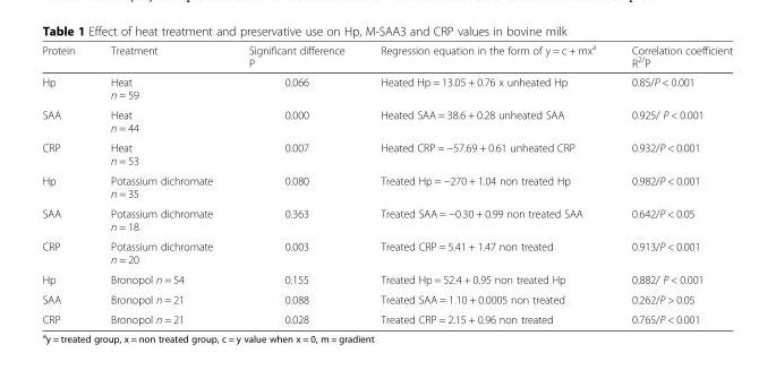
<table><thead><tr><td>Protein</td><td>Treatment</td><td>Significant difference P</td><td>Regression equation in the form of y = c + mx<sup>a</sup></td><td>Correlation coefficient R<sup>2/</sup>P</td></tr></thead><tbody><tr><td>Hp</td><td>Heat n = 59</td><td>0.066</td><td>Heated Hp = 13.05 + 0.76 x unheated Hp</td><td>0.85/P &lt; 0.001</td></tr><tr><td>SAA</td><td>Heat n = 44</td><td>0.000</td><td>Heated SAA = 38.6 + 0.28 unheated SAA</td><td>0.925/ P &lt; 0.001</td></tr><tr><td>CRP</td><td>Heat n = 53</td><td>0.007</td><td>Heated CRP = −57.69 + 0.61 unheated CRP</td><td>0.932/P &lt; 0.001</td></tr><tr><td>Hp</td><td>Potassium dichromate n = 35</td><td>0.080</td><td>Treated Hp = −270 + 1.04 non treated Hp</td><td>0.982/P &lt; 0.001</td></tr><tr><td>SAA</td><td>Potassium dichromate n = 18</td><td>0.363</td><td>Treated SAA = −0.30 + 0.99 non treated SAA</td><td>0.642/P &lt; 0.05</td></tr><tr><td>CRP</td><td>Potassium dichromate n = 20</td><td>0.003</td><td>Treated CRP = 5.41 + 1.47 non treated</td><td>0.913/P &lt; 0.001</td></tr><tr><td>Hp</td><td>Bronopol n = 54</td><td>0.155</td><td>Treated Hp = 52.4 + 0.95 non treated Hp</td><td>0.882/ P &lt; 0.001</td></tr><tr><td>SAA</td><td>Bronopol n = 21</td><td>0.088</td><td>Treated SAA = 1.10 + 0.0005 non treated</td><td>0.262/P &gt; 0.05</td></tr><tr><td>CRP</td><td>Bronopol n = 21</td><td>0.028</td><td>Treated CRP = 2.15 + 0.96 non treated</td><td>0.765/P &lt; 0.001</td></tr></tbody></table>